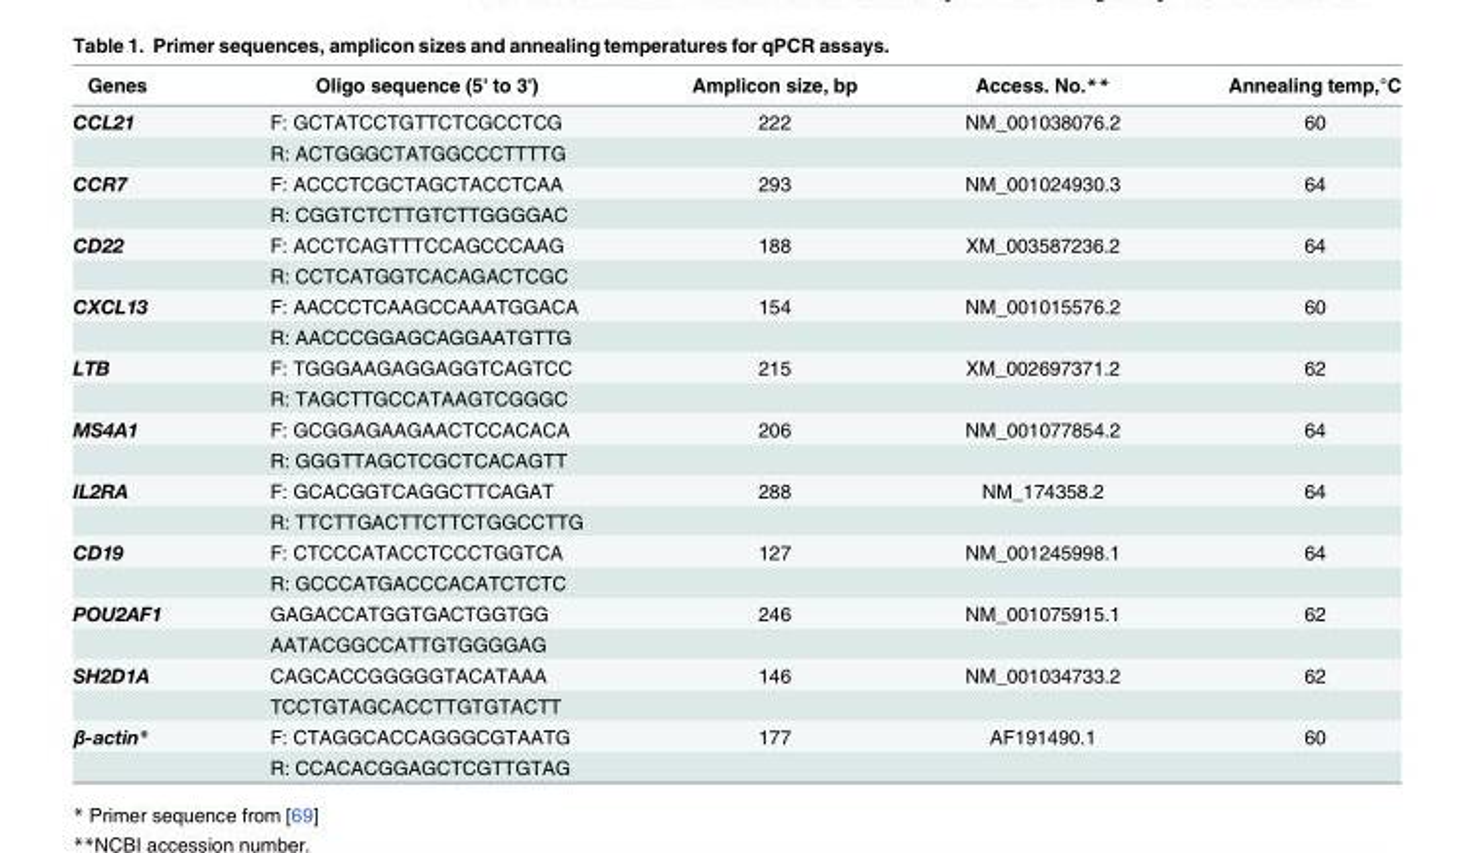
<table><thead><tr><td>Genes</td><td>Oligo sequence (5&#x27; to 3&#x27;)</td><td>Amplicon size, bp</td><td>Access. No.**</td><td>Annealing temp,°C</td></tr></thead><tbody><tr><td rowspan="2">CCL21</td><td>F: GCTATCCTGTTCTCGCCTCG</td><td>222</td><td>NM_001038076.2</td><td>60</td></tr><tr><td>R: ACTGGGCTATGGCCCTTTTG</td><td></td><td></td><td></td></tr><tr><td rowspan="2">CCR7</td><td>F: ACCCTCGCTAGCTACCTCAA</td><td>293</td><td>NM_001024930.3</td><td>64</td></tr><tr><td>R: CGGTCTCTTGTCTTGGGGAC</td><td></td><td></td><td></td></tr><tr><td rowspan="2">CD22</td><td>F: ACCTCAGTTTCCAGCCCAAG</td><td>188</td><td>XM_003587236.2</td><td>64</td></tr><tr><td>R: CCTCATGGTCACAGACTCGC</td><td></td><td></td><td></td></tr><tr><td rowspan="2">CXCL13</td><td>F: AACCCTCAAGCCAAATGGACA</td><td>154</td><td>NM_001015576.2</td><td>60</td></tr><tr><td>R: AACCCGGAGCAGGAATGTTG</td><td></td><td></td><td></td></tr><tr><td rowspan="2">LTB</td><td>F: TGGGAAGAGGAGGTCAGTCC</td><td>215</td><td>XM_002697371.2</td><td>62</td></tr><tr><td>R: TAGCTTGCCATAAGTCGGGC</td><td></td><td></td><td></td></tr><tr><td rowspan="2">MS4A1</td><td>F: GCGGAGAAGAACTCCACACA</td><td>206</td><td>NM_001077854.2</td><td>64</td></tr><tr><td>R: GGGTTAGCTCGCTCACAGTT</td><td></td><td></td><td></td></tr><tr><td rowspan="2">IL2RA</td><td>F: GCACGGTCAGGCTTCAGAT</td><td>288</td><td>NM_174358.2</td><td>64</td></tr><tr><td>R: TTCTTGACTTCTTCTGGCCTTG</td><td></td><td></td><td></td></tr><tr><td rowspan="2">CD19</td><td>F: CTCCCATACCTCCCTGGTCA</td><td>127</td><td>NM_001245998.1</td><td>64</td></tr><tr><td>R: GCCCATGACCCACATCTCTC</td><td></td><td></td><td></td></tr><tr><td rowspan="2">POU2AF1</td><td>GAGACCATGGTGACTGGTGG</td><td>246</td><td>NM_001075915.1</td><td>62</td></tr><tr><td>AATACGGCCATTGTGGGGAG</td><td></td><td></td><td></td></tr><tr><td rowspan="2">SH2D1A</td><td>CAGCACCGGGGGTACATAAA</td><td>146</td><td>NM_001034733.2</td><td>62</td></tr><tr><td>TCCTGTAGCACCTTGTGTACTT</td><td></td><td></td><td></td></tr><tr><td rowspan="2">β-actin*</td><td>F: CTAGGCACCAGGGCGTAATG</td><td>177</td><td>AF191490.1</td><td>60</td></tr><tr><td>R: CCACACGGAGCTCGTTGTAG</td><td></td><td></td><td></td></tr></tbody></table>